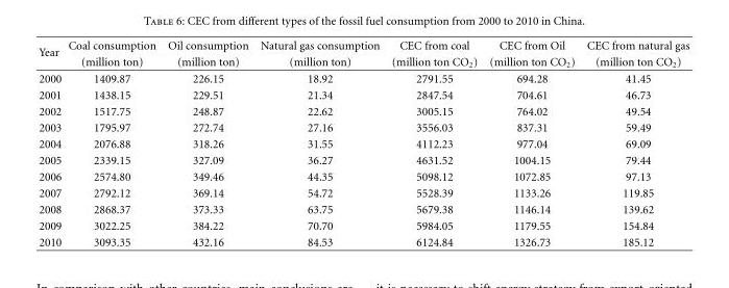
<table><thead><tr><td rowspan="2">Year</td><td rowspan="2">Coal consumption (million ton)</td><td rowspan="2">Oil consumption (million ton)</td><td rowspan="2">Natural gas consumption (million ton)</td><td rowspan="2">CEC from coal (million ton CO<sub>2</sub>)</td><td rowspan="2">CEC from Oil (million ton CO<sub>2</sub>)</td><td rowspan="2">CEC from natural gas (million ton CO<sub>2</sub>)</td></tr><tr></tr></thead><tbody><tr><td>2000</td><td>1409.87</td><td>226.15</td><td>18.92</td><td>2791.55</td><td>694.28</td><td>41.45</td></tr><tr><td>2001</td><td>1438.15</td><td>229.51</td><td>21.34</td><td>2847.54</td><td>704.61</td><td>46.73</td></tr><tr><td>2002</td><td>1517.75</td><td>248.87</td><td>22.62</td><td>3005.15</td><td>764.02</td><td>49.54</td></tr><tr><td>2003</td><td>1795.97</td><td>272.74</td><td>27.16</td><td>3556.03</td><td>837.31</td><td>59.49</td></tr><tr><td>2004</td><td>2076.88</td><td>318.26</td><td>31.55</td><td>4112.23</td><td>977.04</td><td>69.09</td></tr><tr><td>2005</td><td>2339.15</td><td>327.09</td><td>36.27</td><td>4631.52</td><td>1004.15</td><td>79.44</td></tr><tr><td>2006</td><td>2574.80</td><td>349.46</td><td>44.35</td><td>5098.12</td><td>1072.85</td><td>97.13</td></tr><tr><td>2007</td><td>2792.12</td><td>369.14</td><td>54.72</td><td>5528.39</td><td>1133.26</td><td>119.85</td></tr><tr><td>2008</td><td>2868.37</td><td>373.33</td><td>63.75</td><td>5679.38</td><td>1146.14</td><td>139.62</td></tr><tr><td>2009</td><td>3022.25</td><td>384.22</td><td>70.70</td><td>5984.05</td><td>1179.55</td><td>154.84</td></tr><tr><td>2010</td><td>3093.35</td><td>432.16</td><td>84.53</td><td>6124.84</td><td>1326.73</td><td>185.12</td></tr></tbody></table>